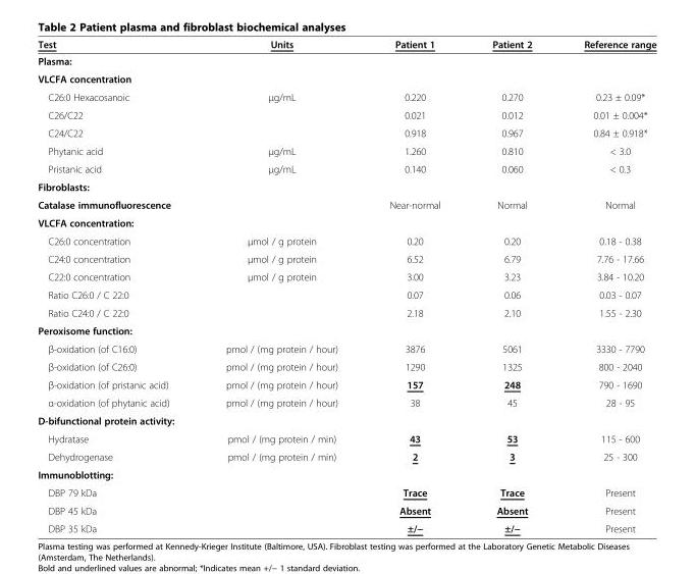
<table><thead><tr><td>Test</td><td>Units</td><td>Patient 1</td><td>Patient 2</td><td>Reference range</td></tr></thead><tbody><tr><td colspan="5">Plasma:</td></tr><tr><td colspan="5">VLCFA concentration</td></tr><tr><td>C26:0 Hexacosanoic</td><td>μg/mL</td><td>0.220</td><td>0.270</td><td>0.23 ± 0.09*</td></tr><tr><td>C26/C22</td><td></td><td>0.021</td><td>0.012</td><td>0.01 ± 0.004*</td></tr><tr><td>C24/C22</td><td></td><td>0.918</td><td>0.967</td><td>0.84 ± 0.918*</td></tr><tr><td>Phytanic acid</td><td>μg/mL</td><td>1.260</td><td>0.810</td><td>&lt; 3.0</td></tr><tr><td>Pristanic acid</td><td>μg/mL</td><td>0.140</td><td>0.060</td><td>&lt; 0.3</td></tr><tr><td colspan="5">Fibroblasts:</td></tr><tr><td>Catalase immunofluorescence</td><td></td><td>Near-normal</td><td>Normal</td><td>Normal</td></tr><tr><td colspan="5">VLCFA concentration:</td></tr><tr><td>C26:0 concentration</td><td>μmol / g protein</td><td>0.20</td><td>0.20</td><td>0.18 - 0.38</td></tr><tr><td>C24:0 concentration</td><td>μmol / g protein</td><td>6.52</td><td>6.79</td><td>7.76 - 17.66</td></tr><tr><td>C22:0 concentration</td><td>μmol / g protein</td><td>3.00</td><td>3.23</td><td>3.84 - 10.20</td></tr><tr><td>Ratio C26:0 / C 22:0</td><td></td><td>0.07</td><td>0.06</td><td>0.03 - 0.07</td></tr><tr><td>Ratio C24:0 / C 22:0</td><td></td><td>2.18</td><td>2.10</td><td>1.55 - 2.30</td></tr><tr><td colspan="5">Peroxisome function:</td></tr><tr><td>β-oxidation (of C16:0)</td><td>pmol / (mg protein / hour)</td><td>3876</td><td>5061</td><td>3330 - 7790</td></tr><tr><td>β-oxidation (of C26:0)</td><td>pmol / (mg protein / hour)</td><td>1290</td><td>1325</td><td>800 - 2040</td></tr><tr><td>β-oxidation (of pristanic acid)</td><td>pmol / (mg protein / hour)</td><td>157</td><td>248</td><td>790 - 1690</td></tr><tr><td>α-oxidation (of phytanic acid)</td><td>pmol / (mg protein / hour)</td><td>38</td><td>45</td><td>28 - 95</td></tr><tr><td colspan="5">D-bifunctional protein activity:</td></tr><tr><td>Hydratase</td><td>pmol / (mg protein / min)</td><td>43</td><td>53</td><td>115 - 600</td></tr><tr><td>Dehydrogenase</td><td>pmol / (mg protein / min)</td><td>2</td><td>3</td><td>25 - 300</td></tr><tr><td colspan="5">Immunoblotting:</td></tr><tr><td>DBP 79 kDa</td><td></td><td>Trace</td><td>Trace</td><td>Present</td></tr><tr><td>DBP 45 kDa</td><td></td><td>Absent</td><td>Absent</td><td>Present</td></tr><tr><td>DBP 35 kDa</td><td></td><td>±/−</td><td>±/−</td><td>Present</td></tr></tbody></table>